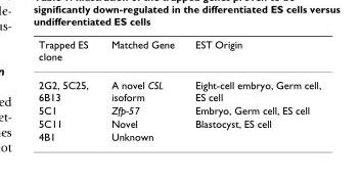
<table><thead><tr><td>Trapped ES clone</td><td>Matched Gene</td><td>EST Origin</td></tr></thead><tbody><tr><td>2G2, 5C25, 6B13</td><td>A novel CSL isoform</td><td>Eight-cell embryo, Germ cell, ES cell</td></tr><tr><td>5C1</td><td>Zfp-57</td><td>Embryo, Germ cell, ES cell</td></tr><tr><td>5C11</td><td>Novel</td><td>Blastocyst, ES cell</td></tr><tr><td>4B1</td><td>Unknown</td><td></td></tr></tbody></table>